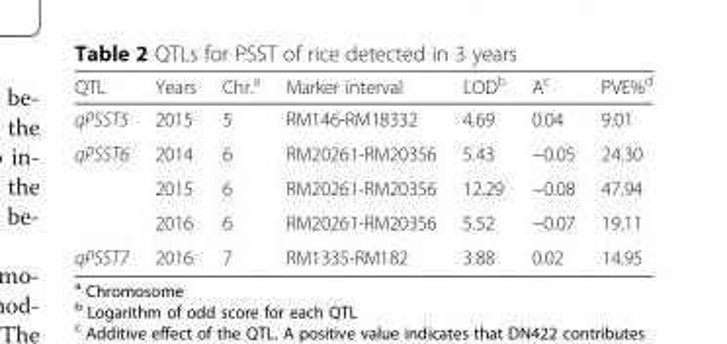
<table><thead><tr><td>QTL</td><td>Years</td><td>Chr.<sup>a</sup></td><td>Marker interval</td><td>LOD<sup>b</sup></td><td>A<sup>c</sup></td><td>PVE%<sup>d</sup></td></tr></thead><tbody><tr><td>qPSST5</td><td>2015</td><td>5</td><td>RM146-RM18332</td><td>4.69</td><td>0.04</td><td>9.01</td></tr><tr><td rowspan="3">qPSST6</td><td>2014</td><td>6</td><td>RM20261-RM20356</td><td>5.43</td><td>−0.05</td><td>24.30</td></tr><tr><td>2015</td><td>6</td><td>RM20261-RM20356</td><td>12.29</td><td>−0.08</td><td>47.94</td></tr><tr><td>2016</td><td>6</td><td>RM20261-RM20356</td><td>5.52</td><td>−0.07</td><td>19.11</td></tr><tr><td>qPSST7</td><td>2016</td><td>7</td><td>RM1335-RM182</td><td>3.88</td><td>0.02</td><td>14.95</td></tr></tbody></table>